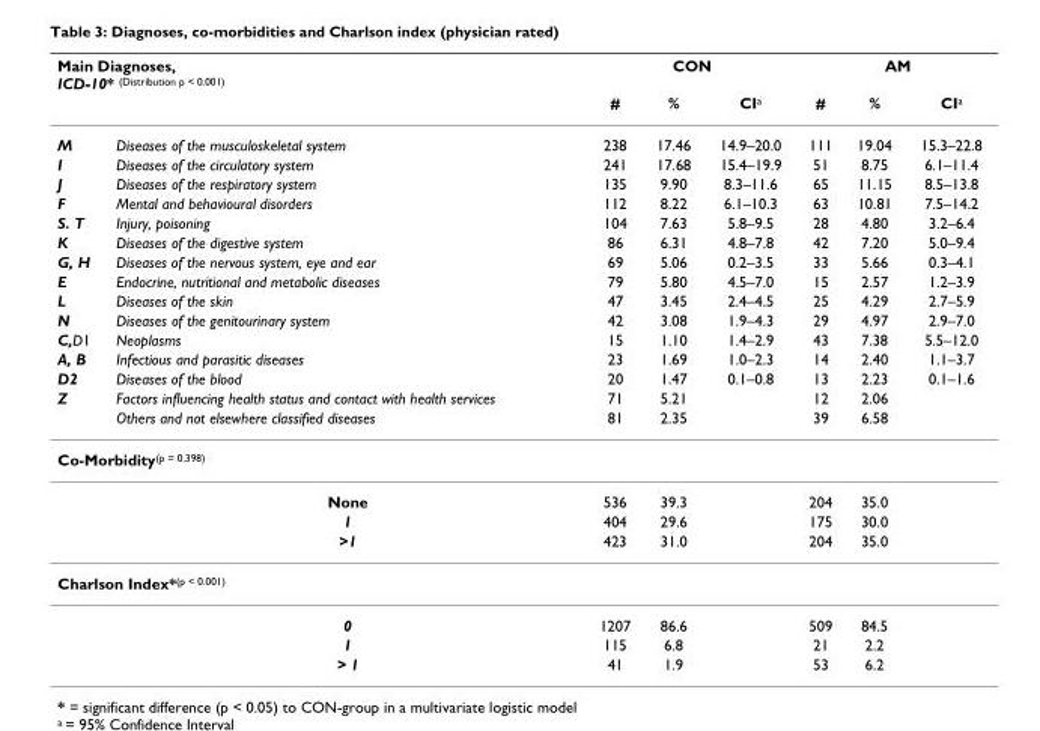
<table><thead><tr><td colspan="2">Main Diagnoses, ICD-10* <sup>(Distribution p &lt; 0.001)</sup></td><td colspan="3">CON</td><td colspan="3">AM</td></tr><tr><td></td><td></td><td>#</td><td>%</td><td>CI<sup>a</sup></td><td>#</td><td>%</td><td>CI<sup>a</sup></td></tr></thead><tbody><tr><td>M</td><td>Diseases of the musculoskeletal system</td><td>238</td><td>17.46</td><td>14.9–20.0</td><td>111</td><td>19.04</td><td>15.3–22.8</td></tr><tr><td>I</td><td>Diseases of the circulatory system</td><td>241</td><td>17.68</td><td>15.4–19.9</td><td>51</td><td>8.75</td><td>6.1–11.4</td></tr><tr><td>J</td><td>Diseases of the respiratory system</td><td>135</td><td>9.90</td><td>8.3–11.6</td><td>65</td><td>11.15</td><td>8.5–13.8</td></tr><tr><td>F</td><td>Mental and behavioural disorders</td><td>112</td><td>8.22</td><td>6.1–10.3</td><td>63</td><td>10.81</td><td>7.5–14.2</td></tr><tr><td>S. T</td><td>Injury, poisoning</td><td>104</td><td>7.63</td><td>5.8–9.5</td><td>28</td><td>4.80</td><td>3.2–6.4</td></tr><tr><td>K</td><td>Diseases of the digestive system</td><td>86</td><td>6.31</td><td>4.8–7.8</td><td>42</td><td>7.20</td><td>5.0–9.4</td></tr><tr><td>G, H</td><td>Diseases of the nervous system, eye and ear</td><td>69</td><td>5.06</td><td>0.2–3.5</td><td>33</td><td>5.66</td><td>0.3–4.1</td></tr><tr><td>E</td><td>Endocrine, nutritional and metabolic diseases</td><td>79</td><td>5.80</td><td>4.5–7.0</td><td>15</td><td>2.57</td><td>1.2–3.9</td></tr><tr><td>L</td><td>Diseases of the skin</td><td>47</td><td>3.45</td><td>2.4–4.5</td><td>25</td><td>4.29</td><td>2.7–5.9</td></tr><tr><td>N</td><td>Diseases of the genitourinary system</td><td>42</td><td>3.08</td><td>1.9–4.3</td><td>29</td><td>4.97</td><td>2.9–7.0</td></tr><tr><td>C,D1</td><td>Neoplasms</td><td>15</td><td>1.10</td><td>1.4–2.9</td><td>43</td><td>7.38</td><td>5.5–12.0</td></tr><tr><td>A, B</td><td>Infectious and parasitic diseases</td><td>23</td><td>1.69</td><td>1.0–2.3</td><td>14</td><td>2.40</td><td>1.1–3.7</td></tr><tr><td>D2</td><td>Diseases of the blood</td><td>20</td><td>1.47</td><td>0.1–0.8</td><td>13</td><td>2.23</td><td>0.1–1.6</td></tr><tr><td rowspan="2">Z</td><td>Factors influencing health status and contact with health services</td><td>71</td><td>5.21</td><td></td><td>12</td><td>2.06</td><td></td></tr><tr><td>Others and not elsewhere classified diseases</td><td>81</td><td>2.35</td><td></td><td>39</td><td>6.58</td><td></td></tr><tr><td colspan="8">Co-Morbidity<sup>(p = 0.398)</sup></td></tr><tr><td></td><td>None</td><td>536</td><td>39.3</td><td></td><td>204</td><td>35.0</td><td></td></tr><tr><td></td><td>1</td><td>404</td><td>29.6</td><td></td><td>175</td><td>30.0</td><td></td></tr><tr><td></td><td>&gt;1</td><td>423</td><td>31.0</td><td></td><td>204</td><td>35.0</td><td></td></tr><tr><td colspan="8">Charlson Index*<sup>(p &lt; 0.001)</sup></td></tr><tr><td></td><td>0</td><td>1207</td><td>86.6</td><td></td><td>509</td><td>84.5</td><td></td></tr><tr><td></td><td>1</td><td>115</td><td>6.8</td><td></td><td>21</td><td>2.2</td><td></td></tr><tr><td></td><td>&gt; 1</td><td>41</td><td>1.9</td><td></td><td>53</td><td>6.2</td><td></td></tr></tbody></table>